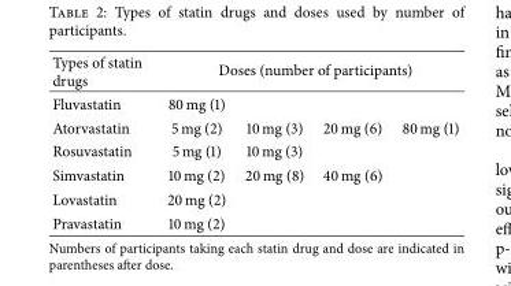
<table><thead><tr><td rowspan="2">Types of statin drugs Fluvastatin</td><td colspan="4">Doses (number of participants)</td></tr><tr><td>80 mg (1)</td><td></td><td></td><td></td></tr></thead><tbody><tr><td>Atorvastatin</td><td>5 mg (2)</td><td>10 mg (3)</td><td>20 mg (6)</td><td>80 mg (1)</td></tr><tr><td>Rosuvastatin</td><td>5 mg (1)</td><td>10 mg (3)</td><td></td><td></td></tr><tr><td>Simvastatin</td><td>10 mg (2)</td><td>20 mg (8)</td><td>40 mg (6)</td><td></td></tr><tr><td>Lovastatin</td><td>20 mg (2)</td><td></td><td></td><td></td></tr><tr><td>Pravastatin</td><td>10 mg (2)</td><td></td><td></td><td></td></tr></tbody></table>